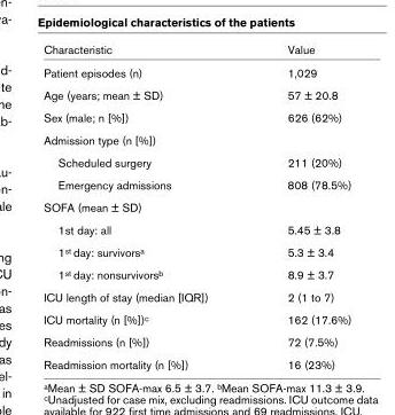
<table><thead><tr><td>Characteristic</td><td>Value</td></tr></thead><tbody><tr><td>Patient episodes (n)</td><td>1,029</td></tr><tr><td>Age (years; mean ± SD)</td><td>57 ± 20.8</td></tr><tr><td>Sex (male; n [%])</td><td>626 (62%)</td></tr><tr><td colspan="2">Admission type (n [%])</td></tr><tr><td>Scheduled surgery</td><td>211 (20%)</td></tr><tr><td>Emergency admissions</td><td>808 (78.5%)</td></tr><tr><td colspan="2">SOFA (mean ± SD)</td></tr><tr><td>1st day: all</td><td>5.45 ± 3.8</td></tr><tr><td>1<sup>st</sup> day: survivors<sup>a</sup></td><td>5.3 ± 3.4</td></tr><tr><td>1<sup>st</sup> day: nonsurvivors<sup>b</sup></td><td>8.9 ± 3.7</td></tr><tr><td>ICU length of stay (median [IQR])</td><td>2 (1 to 7)</td></tr><tr><td>ICU mortality (n [%])<sup>c</sup></td><td>162 (17.6%)</td></tr><tr><td>Readmissions (n [%])</td><td>72 (7.5%)</td></tr><tr><td>Readmission mortality (n [%])</td><td>16 (23%)</td></tr></tbody></table>